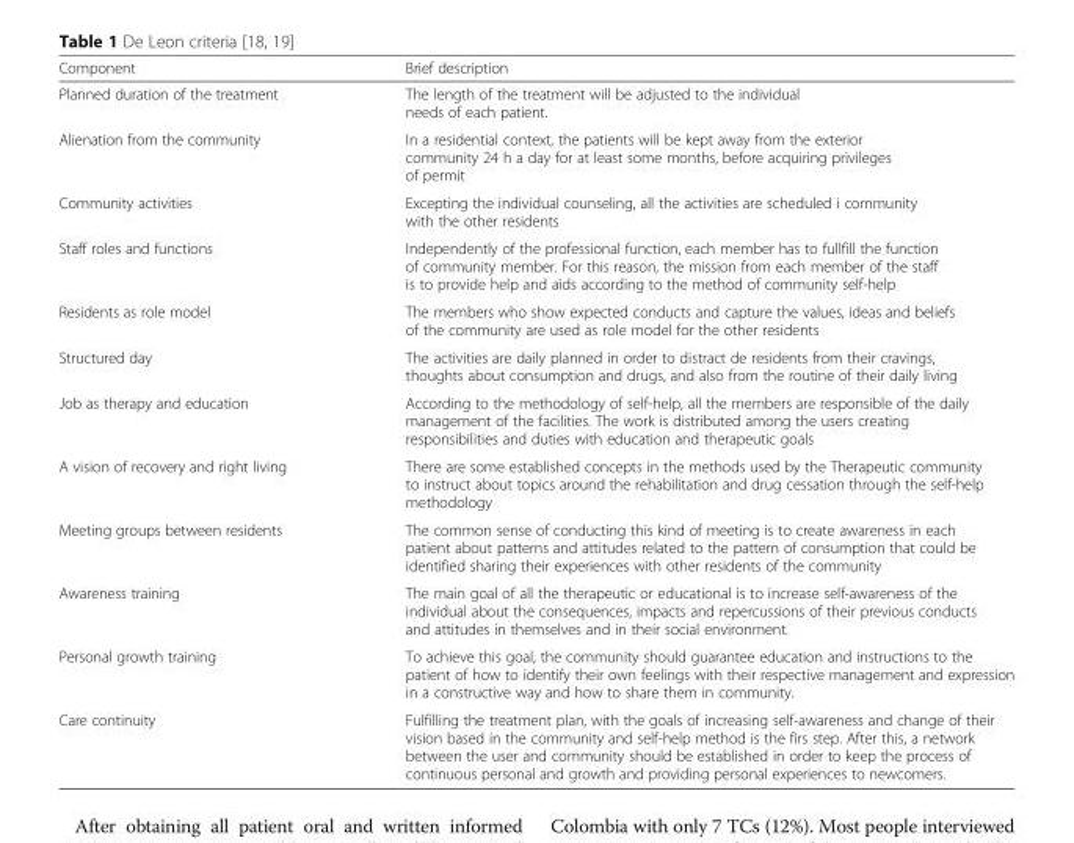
<table><thead><tr><td>Component</td><td>Brief description</td></tr></thead><tbody><tr><td>Planned duration of the treatment</td><td>The length of the treatment will be adjusted to the individual needs of each patient.</td></tr><tr><td>Alienation from the community</td><td>In a residential context, the patients will be kept away from the exterior community 24 h a day for at least some months, before acquiring privileges of permit</td></tr><tr><td>Community activities</td><td>Excepting the individual counseling, all the activities are scheduled i community with the other residents</td></tr><tr><td>Staff roles and functions</td><td>Independently of the professional function, each member has to fullfill the function of community member. For this reason, the mission from each member of the staff is to provide help and aids according to the method of community self-help</td></tr><tr><td>Residents as role model</td><td>The members who show expected conducts and capture the values, ideas and beliefs of the community are used as role model for the other residents</td></tr><tr><td>Structured day</td><td>The activities are daily planned in order to distract de residents from their cravings, thoughts about consumption and drugs, and also from the routine of their daily living</td></tr><tr><td>Job as therapy and education</td><td>According to the methodology of self-help, all the members are responsible of the daily management of the facilities. The work is distributed among the users creating responsibilities and duties with education and therapeutic goals</td></tr><tr><td>A vision of recovery and right living</td><td>There are some established concepts in the methods used by the Therapeutic community to instruct about topics around the rehabilitation and drug cessation through the self-help methodology</td></tr><tr><td>Meeting groups between residents</td><td>The common sense of conducting this kind of meeting is to create awareness in each patient about patterns and attitudes related to the pattern of consumption that could be identified sharing their experiences with other residents of the community</td></tr><tr><td>Awareness training</td><td>The main goal of all the therapeutic or educational is to increase self-awareness of the individual about the consequences, impacts and repercussions of their previous conducts and attitudes in themselves and in their social environment.</td></tr><tr><td>Personal growth training</td><td>To achieve this goal, the community should guarantee education and instructions to the patient of how to identify their own feelings with their respective management and expression in a constructive way and how to share them in community.</td></tr><tr><td>Care continuity</td><td>Fulfilling the treatment plan, with the goals of increasing self-awareness and change of their vision based in the community and self-help method is the firs step. After this, a network between the user and community should be established in order to keep the process of continuous personal and growth and providing personal experiences to newcomers.</td></tr></tbody></table>